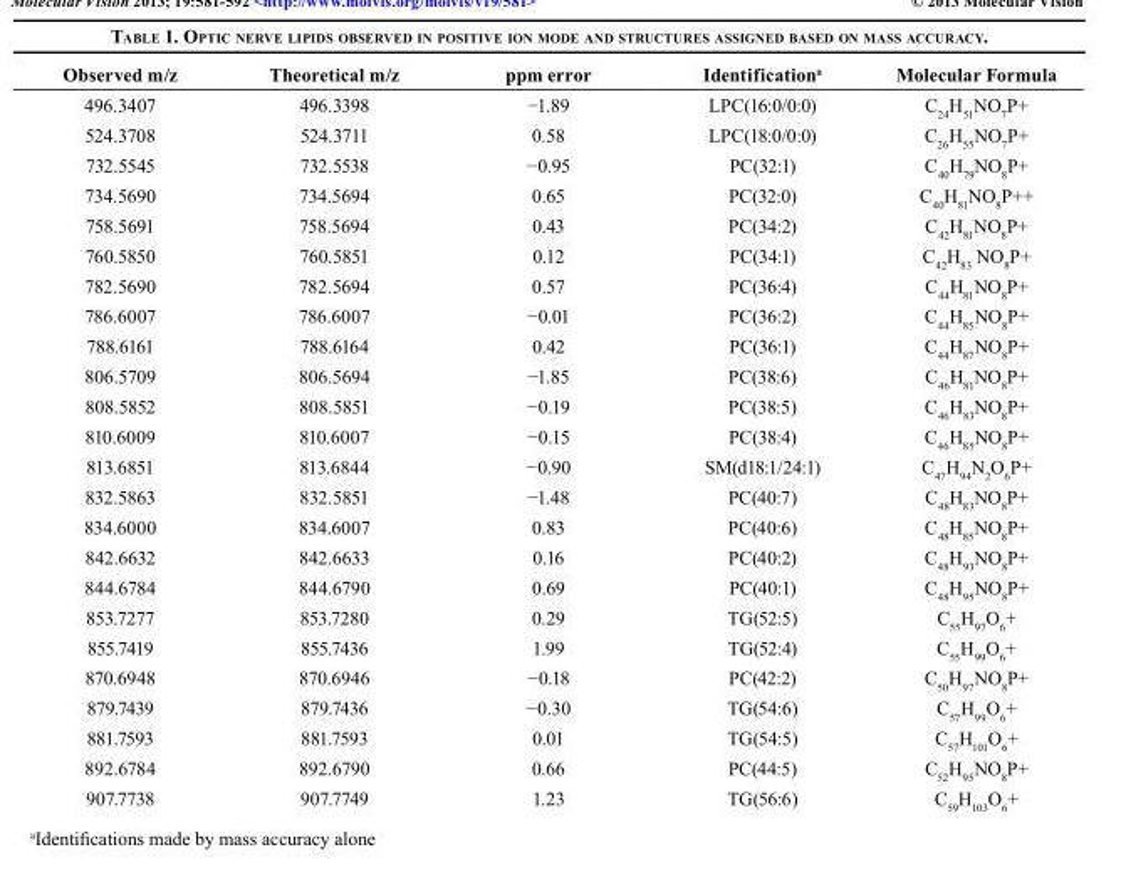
<table><thead><tr><td>Observed m/z</td><td>Theoretical m/z</td><td>ppm error</td><td>Identification<sup>a</sup></td><td>Molecular Formula</td></tr></thead><tbody><tr><td>496.3407</td><td>496.3398</td><td>−1.89</td><td>LPC(16:0/0:0)</td><td>C<sub>24</sub>H<sub>51</sub>NO<sub>7</sub>P+</td></tr><tr><td>524.3708</td><td>524.3711</td><td>0.58</td><td>LPC(18:0/0:0)</td><td>C<sub>26</sub>H<sub>55</sub>NO<sub>7</sub>P+</td></tr><tr><td>732.5545</td><td>732.5538</td><td>−0.95</td><td>PC(32:1)</td><td>C<sub>40</sub>H<sub>79</sub>NO<sub>8</sub>P+</td></tr><tr><td>734.5690</td><td>734.5694</td><td>0.65</td><td>PC(32:0)</td><td>C<sub>40</sub>H<sub>81</sub>NO<sub>8</sub>P++</td></tr><tr><td>758.5691</td><td>758.5694</td><td>0.43</td><td>PC(34:2)</td><td>C<sub>42</sub>H<sub>81</sub>NO<sub>8</sub>P+</td></tr><tr><td>760.5850</td><td>760.5851</td><td>0.12</td><td>PC(34:1)</td><td>C<sub>42</sub>H<sub>83</sub> NO<sub>8</sub>P+</td></tr><tr><td>782.5690</td><td>782.5694</td><td>0.57</td><td>PC(36:4)</td><td>C<sub>44</sub>H<sub>81</sub>NO<sub>8</sub>P+</td></tr><tr><td>786.6007</td><td>786.6007</td><td>−0.01</td><td>PC(36:2)</td><td>C<sub>44</sub>H<sub>85</sub>NO<sub>8</sub>P+</td></tr><tr><td>788.6161</td><td>788.6164</td><td>0.42</td><td>PC(36:1)</td><td>C<sub>44</sub>H<sub>87</sub>NO<sub>8</sub>P+</td></tr><tr><td>806.5709</td><td>806.5694</td><td>−1.85</td><td>PC(38:6)</td><td>C<sub>46</sub>H<sub>81</sub>NO<sub>8</sub>P+</td></tr><tr><td>808.5852</td><td>808.5851</td><td>−0.19</td><td>PC(38:5)</td><td>C<sub>46</sub>H<sub>83</sub>NO<sub>8</sub>P+</td></tr><tr><td>810.6009</td><td>810.6007</td><td>−0.15</td><td>PC(38:4)</td><td>C<sub>46</sub>H<sub>85</sub>NO<sub>8</sub>P+</td></tr><tr><td>813.6851</td><td>813.6844</td><td>−0.90</td><td>SM(d18:1/24:1)</td><td>C<sub>47</sub>H<sub>94</sub>N<sub>2</sub>O<sub>6</sub>P+</td></tr><tr><td>832.5863</td><td>832.5851</td><td>−1.48</td><td>PC(40:7)</td><td>C<sub>48</sub>H<sub>83</sub>NO<sub>8</sub>P+</td></tr><tr><td>834.6000</td><td>834.6007</td><td>0.83</td><td>PC(40:6)</td><td>C<sub>48</sub>H<sub>85</sub>NO<sub>8</sub>P+</td></tr><tr><td>842.6632</td><td>842.6633</td><td>0.16</td><td>PC(40:2)</td><td>C<sub>48</sub>H<sub>93</sub>NO<sub>8</sub>P+</td></tr><tr><td>844.6784</td><td>844.6790</td><td>0.69</td><td>PC(40:1)</td><td>C<sub>48</sub>H<sub>95</sub>NO<sub>8</sub>P+</td></tr><tr><td>853.7277</td><td>853.7280</td><td>0.29</td><td>TG(52:5)</td><td>C<sub>55</sub>H<sub>97</sub>O<sub>6</sub>+</td></tr><tr><td>855.7419</td><td>855.7436</td><td>1.99</td><td>TG(52:4)</td><td>C<sub>55</sub>H<sub>99</sub>O<sub>6</sub>+</td></tr><tr><td>870.6948</td><td>870.6946</td><td>−0.18</td><td>PC(42:2)</td><td>C<sub>50</sub>H<sub>97</sub>NO<sub>8</sub>P+</td></tr><tr><td>879.7439</td><td>879.7436</td><td>−0.30</td><td>TG(54:6)</td><td>C<sub>57</sub>H<sub>99</sub>O<sub>6</sub>+</td></tr><tr><td>881.7593</td><td>881.7593</td><td>0.01</td><td>TG(54:5)</td><td>C<sub>57</sub>H<sub>101</sub>O<sub>6</sub>+</td></tr><tr><td>892.6784</td><td>892.6790</td><td>0.66</td><td>PC(44:5)</td><td>C<sub>52</sub>H<sub>95</sub>NO<sub>8</sub>P+</td></tr><tr><td>907.7738</td><td>907.7749</td><td>1.23</td><td>TG(56:6)</td><td>C<sub>59</sub>H<sub>103</sub>O<sub>6</sub>+</td></tr></tbody></table>